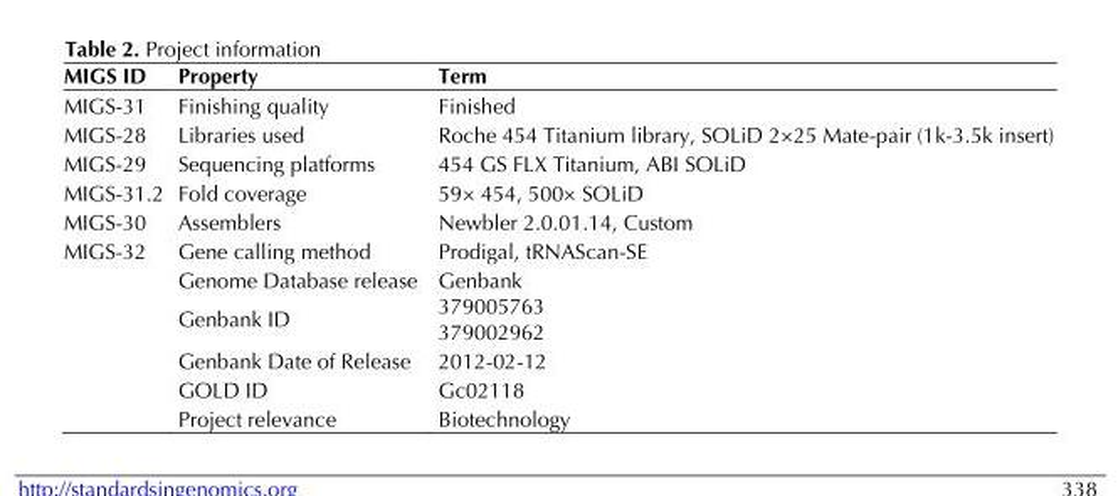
<table><thead><tr><td>MIGS ID</td><td>Property</td><td>Term</td></tr></thead><tbody><tr><td>MIGS-31</td><td>Finishing quality</td><td>Finished</td></tr><tr><td>MIGS-28</td><td>Libraries used</td><td>Roche 454 Titanium library, SOLiD 2×25 Mate-pair (1k-3.5k insert)</td></tr><tr><td>MIGS-29</td><td>Sequencing platforms</td><td>454 GS FLX Titanium, ABI SOLiD</td></tr><tr><td>MIGS-31.2</td><td>Fold coverage</td><td>59× 454, 500× SOLiD</td></tr><tr><td>MIGS-30</td><td>Assemblers</td><td>Newbler 2.0.01.14, Custom</td></tr><tr><td rowspan="6">MIGS-32</td><td>Gene calling method</td><td>Prodigal, tRNAScan-SE</td></tr><tr><td>Genome Database release</td><td>Genbank</td></tr><tr><td>Genbank ID</td><td>379005763 379002962</td></tr><tr><td>Genbank Date of Release</td><td>2012-02-12</td></tr><tr><td>GOLD ID</td><td>Gc02118</td></tr><tr><td>Project relevance</td><td>Biotechnology</td></tr></tbody></table>